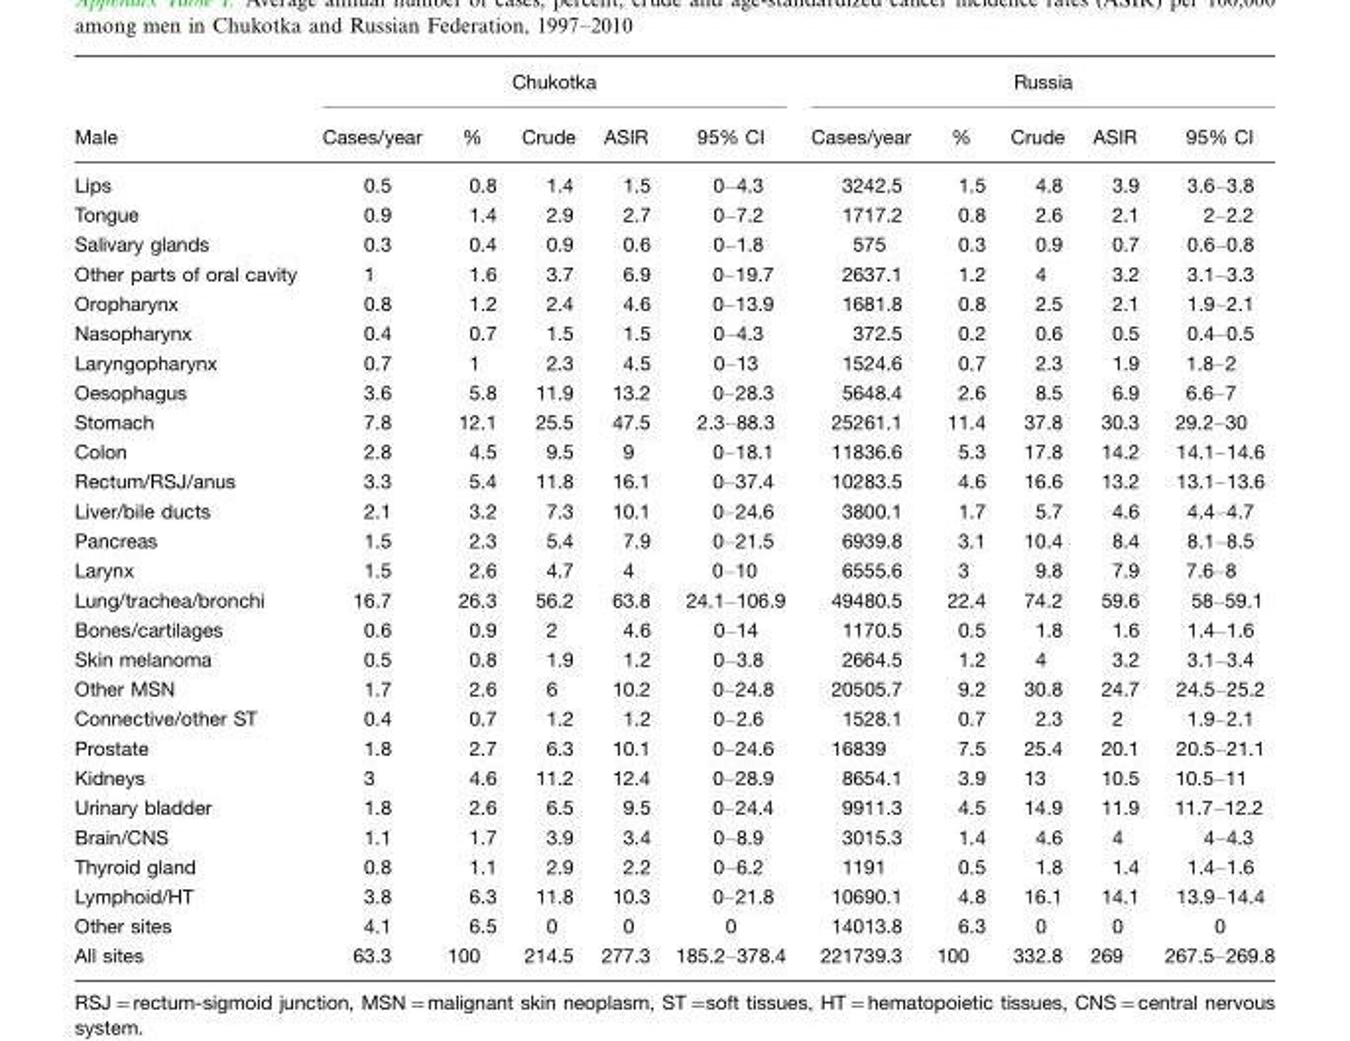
<table><thead><tr><td rowspan="2">Male</td><td colspan="5">Chukotka</td><td colspan="5">Russia</td></tr><tr><td>Cases/year</td><td>%</td><td>Crude</td><td>ASIR</td><td>95% CI</td><td>Cases/year</td><td>%</td><td>Crude</td><td>ASIR</td><td>95% CI</td></tr></thead><tbody><tr><td>Lips</td><td>0.5</td><td>0.8</td><td>1.4</td><td>1.5</td><td>0–4.3</td><td>3242.5</td><td>1.5</td><td>4.8</td><td>3.9</td><td>3.6–3.8</td></tr><tr><td>Tongue</td><td>0.9</td><td>1.4</td><td>2.9</td><td>2.7</td><td>0–7.2</td><td>1717.2</td><td>0.8</td><td>2.6</td><td>2.1</td><td>2–2.2</td></tr><tr><td>Salivary glands</td><td>0.3</td><td>0.4</td><td>0.9</td><td>0.6</td><td>0–1.8</td><td>575</td><td>0.3</td><td>0.9</td><td>0.7</td><td>0.6–0.8</td></tr><tr><td>Other parts of oral cavity</td><td>1</td><td>1.6</td><td>3.7</td><td>6.9</td><td>0–19.7</td><td>2637.1</td><td>1.2</td><td>4</td><td>3.2</td><td>3.1–3.3</td></tr><tr><td>Oropharynx</td><td>0.8</td><td>1.2</td><td>2.4</td><td>4.6</td><td>0–13.9</td><td>1681.8</td><td>0.8</td><td>2.5</td><td>2.1</td><td>1.9–2.1</td></tr><tr><td>Nasopharynx</td><td>0.4</td><td>0.7</td><td>1.5</td><td>1.5</td><td>0–4.3</td><td>372.5</td><td>0.2</td><td>0.6</td><td>0.5</td><td>0.4–0.5</td></tr><tr><td>Laryngopharynx</td><td>0.7</td><td>1</td><td>2.3</td><td>4.5</td><td>0–13</td><td>1524.6</td><td>0.7</td><td>2.3</td><td>1.9</td><td>1.8–2</td></tr><tr><td>Oesophagus</td><td>3.6</td><td>5.8</td><td>11.9</td><td>13.2</td><td>0–28.3</td><td>5648.4</td><td>2.6</td><td>8.5</td><td>6.9</td><td>6.6–7</td></tr><tr><td>Stomach</td><td>7.8</td><td>12.1</td><td>25.5</td><td>47.5</td><td>2.3–88.3</td><td>25261.1</td><td>11.4</td><td>37.8</td><td>30.3</td><td>29.2–30</td></tr><tr><td>Colon</td><td>2.8</td><td>4.5</td><td>9.5</td><td>9</td><td>0–18.1</td><td>11836.6</td><td>5.3</td><td>17.8</td><td>14.2</td><td>14.1–14.6</td></tr><tr><td>Rectum/RSJ/anus</td><td>3.3</td><td>5.4</td><td>11.8</td><td>16.1</td><td>0–37.4</td><td>10283.5</td><td>4.6</td><td>16.6</td><td>13.2</td><td>13.1–13.6</td></tr><tr><td>Liver/bile ducts</td><td>2.1</td><td>3.2</td><td>7.3</td><td>10.1</td><td>0–24.6</td><td>3800.1</td><td>1.7</td><td>5.7</td><td>4.6</td><td>4.4–4.7</td></tr><tr><td>Pancreas</td><td>1.5</td><td>2.3</td><td>5.4</td><td>7.9</td><td>0–21.5</td><td>6939.8</td><td>3.1</td><td>10.4</td><td>8.4</td><td>8.1–8.5</td></tr><tr><td>Larynx</td><td>1.5</td><td>2.6</td><td>4.7</td><td>4</td><td>0–10</td><td>6555.6</td><td>3</td><td>9.8</td><td>7.9</td><td>7.6–8</td></tr><tr><td>Lung/trachea/bronchi</td><td>16.7</td><td>26.3</td><td>56.2</td><td>63.8</td><td>24.1–106.9</td><td>49480.5</td><td>22.4</td><td>74.2</td><td>59.6</td><td>58–59.1</td></tr><tr><td>Bones/cartilages</td><td>0.6</td><td>0.9</td><td>2</td><td>4.6</td><td>0–14</td><td>1170.5</td><td>0.5</td><td>1.8</td><td>1.6</td><td>1.4–1.6</td></tr><tr><td>Skin melanoma</td><td>0.5</td><td>0.8</td><td>1.9</td><td>1.2</td><td>0–3.8</td><td>2664.5</td><td>1.2</td><td>4</td><td>3.2</td><td>3.1–3.4</td></tr><tr><td>Other MSN</td><td>1.7</td><td>2.6</td><td>6</td><td>10.2</td><td>0–24.8</td><td>20505.7</td><td>9.2</td><td>30.8</td><td>24.7</td><td>24.5–25.2</td></tr><tr><td>Connective/other ST</td><td>0.4</td><td>0.7</td><td>1.2</td><td>1.2</td><td>0–2.6</td><td>1528.1</td><td>0.7</td><td>2.3</td><td>2</td><td>1.9–2.1</td></tr><tr><td>Prostate</td><td>1.8</td><td>2.7</td><td>6.3</td><td>10.1</td><td>0–24.6</td><td>16839</td><td>7.5</td><td>25.4</td><td>20.1</td><td>20.5–21.1</td></tr><tr><td>Kidneys</td><td>3</td><td>4.6</td><td>11.2</td><td>12.4</td><td>0–28.9</td><td>8654.1</td><td>3.9</td><td>13</td><td>10.5</td><td>10.5–11</td></tr><tr><td>Urinary bladder</td><td>1.8</td><td>2.6</td><td>6.5</td><td>9.5</td><td>0–24.4</td><td>9911.3</td><td>4.5</td><td>14.9</td><td>11.9</td><td>11.7–12.2</td></tr><tr><td>Brain/CNS</td><td>1.1</td><td>1.7</td><td>3.9</td><td>3.4</td><td>0–8.9</td><td>3015.3</td><td>1.4</td><td>4.6</td><td>4</td><td>4–4.3</td></tr><tr><td>Thyroid gland</td><td>0.8</td><td>1.1</td><td>2.9</td><td>2.2</td><td>0–6.2</td><td>1191</td><td>0.5</td><td>1.8</td><td>1.4</td><td>1.4–1.6</td></tr><tr><td>Lymphoid/HT</td><td>3.8</td><td>6.3</td><td>11.8</td><td>10.3</td><td>0–21.8</td><td>10690.1</td><td>4.8</td><td>16.1</td><td>14.1</td><td>13.9–14.4</td></tr><tr><td>Other sites</td><td>4.1</td><td>6.5</td><td>0</td><td>0</td><td>0</td><td>14013.8</td><td>6.3</td><td>0</td><td>0</td><td>0</td></tr><tr><td>All sites</td><td>63.3</td><td>100</td><td>214.5</td><td>277.3</td><td>185.2–378.4</td><td>221739.3</td><td>100</td><td>332.8</td><td>269</td><td>267.5–269.8</td></tr></tbody></table>